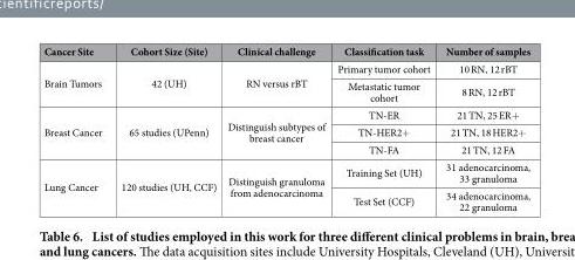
<table><thead><tr><td>Cancer Site</td><td>Cohort Size (Site)</td><td>Clinical challenge</td><td>Classification task</td><td>Number of samples</td></tr></thead><tbody><tr><td rowspan="2">Brain Tumors</td><td rowspan="2">42 (UH)</td><td rowspan="2">RN versus rBT</td><td>Primary tumor cohort</td><td>10 RN, 12 rBT</td></tr><tr><td>Metastatic tumor cohort</td><td>8 RN, 12 rBT</td></tr><tr><td rowspan="3">Breast Cancer</td><td rowspan="3">65 studies (UPenn)</td><td rowspan="3">Distinguish subtypes of breast cancer</td><td>TN-ER</td><td>21 TN, 25 ER+</td></tr><tr><td>TN-HER2+</td><td>21 TN, 18 HER2+</td></tr><tr><td>TN-FA</td><td>21 TN, 12 FA</td></tr><tr><td rowspan="2">Lung Cancer</td><td rowspan="2">120 studies (UH, CCF)</td><td rowspan="2">Distinguish granuloma from adenocarcinoma</td><td>Training Set (UH)</td><td>31 adenocarcinoma, 33 granuloma</td></tr><tr><td>Test Set (CCF)</td><td>34 adenocarcinoma, 22 granuloma</td></tr></tbody></table>